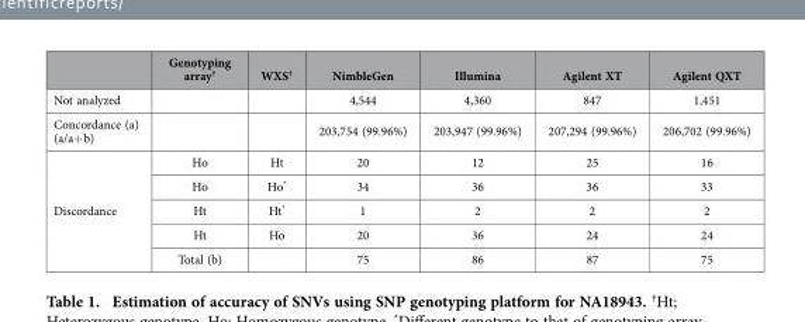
<table><thead><tr><td></td><td>Genotyping array†</td><td>WXS†</td><td>NimbleGen</td><td>Illumina</td><td>Agilent XT</td><td>Agilent QXT</td></tr></thead><tbody><tr><td>Not analyzed</td><td></td><td></td><td>4,544</td><td>4,360</td><td>847</td><td>1,451</td></tr><tr><td>Concordance (a) (a/a+ b)</td><td></td><td></td><td>203,754 (99.96%)</td><td>203,947 (99.96%)</td><td>207,294 (99.96%)</td><td>206,702 (99.96%)</td></tr><tr><td rowspan="5">Discordance</td><td>Ho</td><td>Ht</td><td>20</td><td>12</td><td>25</td><td>16</td></tr><tr><td>Ho</td><td>Ho*</td><td>34</td><td>36</td><td>36</td><td>33</td></tr><tr><td>Ht</td><td>Ht*</td><td>1</td><td>2</td><td>2</td><td>2</td></tr><tr><td>Ht</td><td>Ho</td><td>20</td><td>36</td><td>24</td><td>24</td></tr><tr><td>Total (b)</td><td></td><td>75</td><td>86</td><td>87</td><td>75</td></tr></tbody></table>